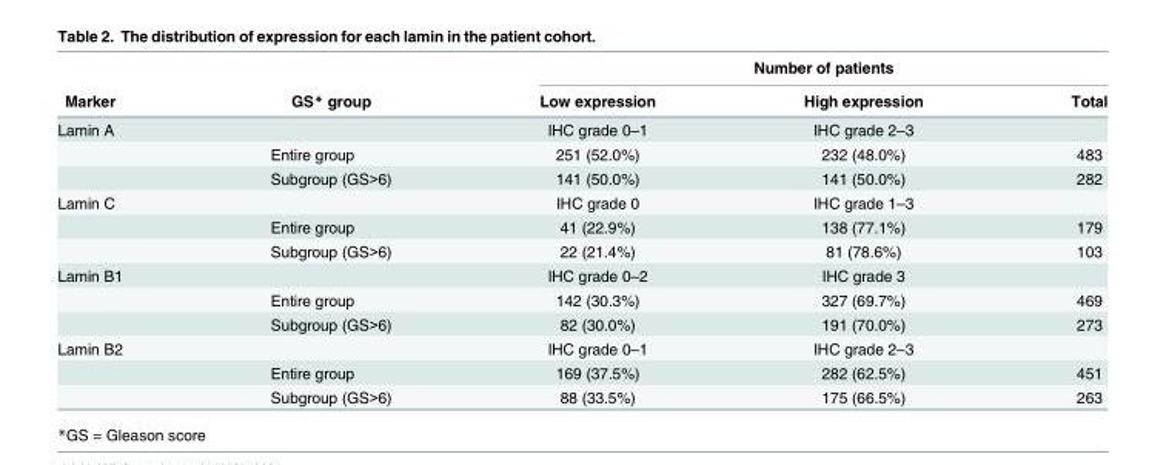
<table><thead><tr><td rowspan="2">Marker</td><td rowspan="2">GS* group</td><td colspan="3">Number of patients</td></tr><tr><td>Low expression</td><td>High expression</td><td>Total</td></tr></thead><tbody><tr><td rowspan="3">Lamin A</td><td></td><td>IHC grade 0–1</td><td>IHC grade 2–3</td><td></td></tr><tr><td>Entire group</td><td>251 (52.0%)</td><td>232 (48.0%)</td><td>483</td></tr><tr><td>Subgroup (GS&gt;6)</td><td>141 (50.0%)</td><td>141 (50.0%)</td><td>282</td></tr><tr><td rowspan="3">Lamin C</td><td></td><td>IHC grade 0</td><td>IHC grade 1–3</td><td></td></tr><tr><td>Entire group</td><td>41 (22.9%)</td><td>138 (77.1%)</td><td>179</td></tr><tr><td>Subgroup (GS&gt;6)</td><td>22 (21.4%)</td><td>81 (78.6%)</td><td>103</td></tr><tr><td rowspan="3">Lamin B1</td><td></td><td>IHC grade 0–2</td><td>IHC grade 3</td><td></td></tr><tr><td>Entire group</td><td>142 (30.3%)</td><td>327 (69.7%)</td><td>469</td></tr><tr><td>Subgroup (GS&gt;6)</td><td>82 (30.0%)</td><td>191 (70.0%)</td><td>273</td></tr><tr><td rowspan="3">Lamin B2</td><td></td><td>IHC grade 0–1</td><td>IHC grade 2–3</td><td></td></tr><tr><td>Entire group</td><td>169 (37.5%)</td><td>282 (62.5%)</td><td>451</td></tr><tr><td>Subgroup (GS&gt;6)</td><td>88 (33.5%)</td><td>175 (66.5%)</td><td>263</td></tr></tbody></table>